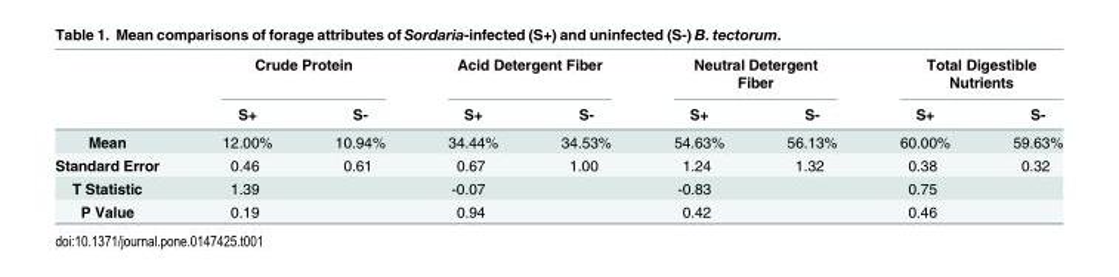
<table><thead><tr><td rowspan="2"></td><td colspan="2">Crude Protein</td><td colspan="2">Acid Detergent Fiber</td><td colspan="2">Neutral Detergent Fiber</td><td colspan="2">Total Digestible Nutrients</td></tr><tr><td>S+</td><td>S-</td><td>S+</td><td>S-</td><td>S+</td><td>S-</td><td>S+</td><td>S-</td></tr></thead><tbody><tr><td>Mean</td><td>12.00%</td><td>10.94%</td><td>34.44%</td><td>34.53%</td><td>54.63%</td><td>56.13%</td><td>60.00%</td><td>59.63%</td></tr><tr><td>Standard Error</td><td>0.46</td><td>0.61</td><td>0.67</td><td>1.00</td><td>1.24</td><td>1.32</td><td>0.38</td><td>0.32</td></tr><tr><td>T Statistic</td><td colspan="2">1.39</td><td colspan="2">-0.07</td><td colspan="2">-0.83</td><td colspan="2">0.75</td></tr><tr><td>P Value</td><td colspan="2">0.19</td><td colspan="2">0.94</td><td colspan="2">0.42</td><td colspan="2">0.46</td></tr></tbody></table>